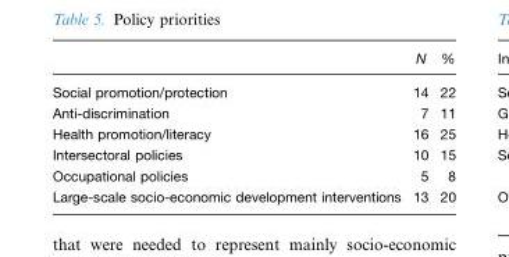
<table><thead><tr><td></td><td>N</td><td>%</td></tr></thead><tbody><tr><td>Social promotion/protection</td><td>14</td><td>22</td></tr><tr><td>Anti-discrimination</td><td>7</td><td>11</td></tr><tr><td>Health promotion/literacy</td><td>16</td><td>25</td></tr><tr><td>Intersectoral policies</td><td>10</td><td>15</td></tr><tr><td>Occupational policies</td><td>5</td><td>8</td></tr><tr><td>Large-scale socio-economic development interventions</td><td>13</td><td>20</td></tr></tbody></table>